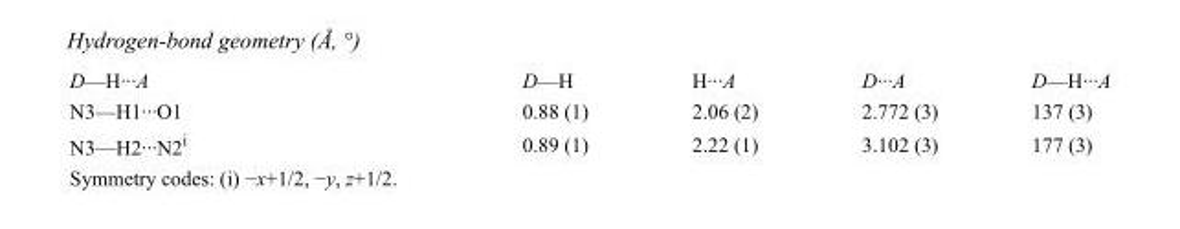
<table><tbody><tr><td>D—H···A</td><td>D—H</td><td>H···A</td><td>D···A</td><td>D—H···A</td></tr><tr><td>N3—H1···O1</td><td>0.88 (1)</td><td>2.06 (2)</td><td>2.772 (3)</td><td>137 (3)</td></tr><tr><td>N3—H2···N2<sup>i</sup></td><td>0.89 (1)</td><td>2.22 (1)</td><td>3.102 (3)</td><td>177 (3)</td></tr></tbody></table>